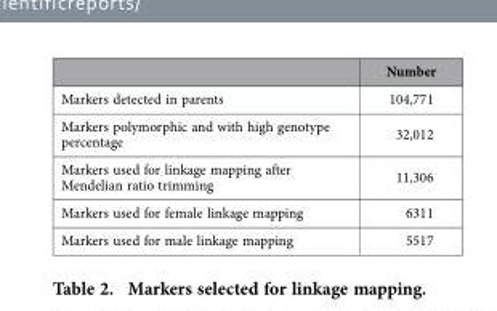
<table><thead><tr><td></td><td>Number</td></tr></thead><tbody><tr><td>Markers detected in parents</td><td>104,771</td></tr><tr><td>Markers polymorphic and with high genotype percentage</td><td>32,012</td></tr><tr><td>Markers used for linkage mapping after Mendelian ratio trimming</td><td>11,306</td></tr><tr><td>Markers used for female linkage mapping</td><td>6311</td></tr><tr><td>Markers used for male linkage mapping</td><td>5517</td></tr></tbody></table>